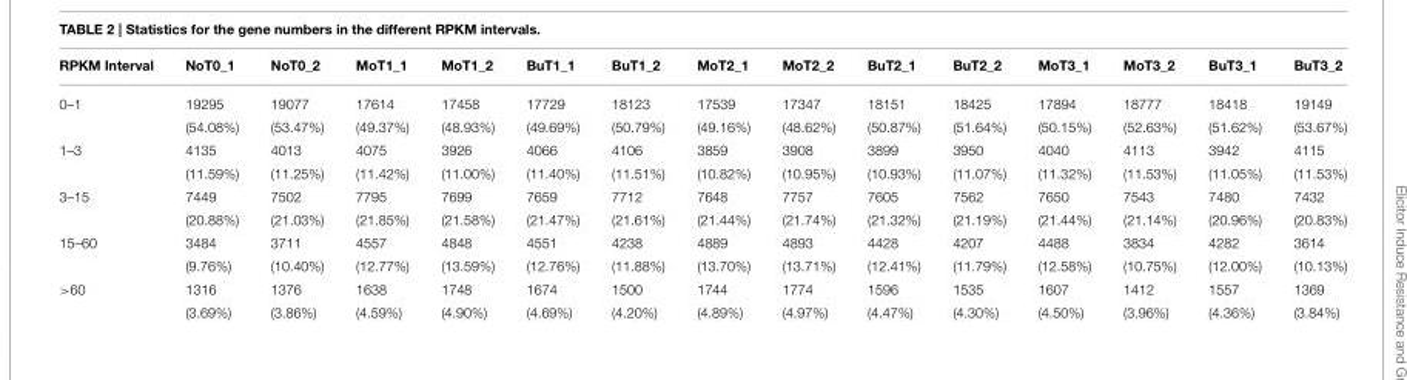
<table><thead><tr><td>RPKM Interval</td><td>NoT0_1</td><td>NoT0_2</td><td>MoT1_1</td><td>MoT1_2</td><td>BuT1_1</td><td>BuT1_2</td><td>MoT2_1</td><td>MoT2_2</td><td>BuT2_1</td><td>BuT2_2</td><td>MoT3_1</td><td>MoT3_2</td><td>BuT3_1</td><td>BuT3_2</td></tr></thead><tbody><tr><td rowspan="2">0–1</td><td>19295</td><td>19077</td><td>17614</td><td>17458</td><td>17729</td><td>18123</td><td>17539</td><td>17347</td><td>18151</td><td>18425</td><td>17894</td><td>18777</td><td>18418</td><td>19149</td></tr><tr><td>(54.08%)</td><td>(53.47%)</td><td>(49.37%)</td><td>(48.93%)</td><td>(49.69%)</td><td>(50.79%)</td><td>(49.16%)</td><td>(48.62%)</td><td>(50.87%)</td><td>(51.64%)</td><td>(50.15%)</td><td>(52.63%)</td><td>(51.62%)</td><td>(53.67%)</td></tr><tr><td rowspan="2">1–3</td><td>4135</td><td>4013</td><td>4075</td><td>3926</td><td>4066</td><td>4106</td><td>3859</td><td>3908</td><td>3899</td><td>3950</td><td>4040</td><td>4113</td><td>3942</td><td>4115</td></tr><tr><td>(11.59%)</td><td>(11.25%)</td><td>(11.42%)</td><td>(11.00%)</td><td>(11.40%)</td><td>(11.51%)</td><td>(10.82%)</td><td>(10.95%)</td><td>(10.93%)</td><td>(11.07%)</td><td>(11.32%)</td><td>(11.53%)</td><td>(11.05%)</td><td>(11.53%)</td></tr><tr><td rowspan="2">3–15</td><td>7449</td><td>7502</td><td>7795</td><td>7699</td><td>7659</td><td>7712</td><td>7648</td><td>7757</td><td>7605</td><td>7562</td><td>7650</td><td>7543</td><td>7480</td><td>7432</td></tr><tr><td>(20.88%)</td><td>(21.03%)</td><td>(21.85%)</td><td>(21.58%)</td><td>(21.47%)</td><td>(21.61%)</td><td>(21.44%)</td><td>(21.74%)</td><td>(21.32%)</td><td>(21.19%)</td><td>(21.44%)</td><td>(21.14%)</td><td>(20.96%)</td><td>(20.83%)</td></tr><tr><td rowspan="2">15–60</td><td>3484</td><td>3711</td><td>4557</td><td>4848</td><td>4551</td><td>4238</td><td>4889</td><td>4893</td><td>4428</td><td>4207</td><td>4488</td><td>3834</td><td>4282</td><td>3614</td></tr><tr><td>(9.76%)</td><td>(10.40%)</td><td>(12.77%)</td><td>(13.59%)</td><td>(12.76%)</td><td>(11.88%)</td><td>(13.70%)</td><td>(13.71%)</td><td>(12.41%)</td><td>(11.79%)</td><td>(12.58%)</td><td>(10.75%)</td><td>(12.00%)</td><td>(10.13%)</td></tr><tr><td rowspan="2">&gt;60</td><td>1316</td><td>1376</td><td>1638</td><td>1748</td><td>1674</td><td>1500</td><td>1744</td><td>1774</td><td>1596</td><td>1535</td><td>1607</td><td>1412</td><td>1557</td><td>1369</td></tr><tr><td>(3.69%)</td><td>(3.86%)</td><td>(4.59%)</td><td>(4.90%)</td><td>(4.69%)</td><td>(4.20%)</td><td>(4.89%)</td><td>(4.97%)</td><td>(4.47%)</td><td>(4.30%)</td><td>(4.50%)</td><td>(3.96%)</td><td>(4.36%)</td><td>(3.84%)</td></tr></tbody></table>